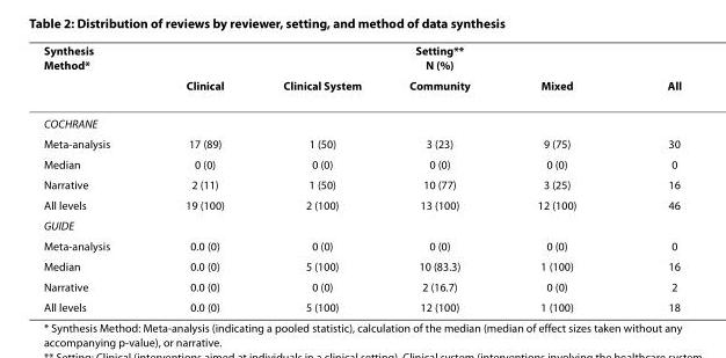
<table><thead><tr><td rowspan="2">Synthesis Method*</td><td colspan="5">Setting** N (%)</td></tr><tr><td>Clinical</td><td>Clinical System</td><td>Community</td><td>Mixed</td><td>All</td></tr></thead><tbody><tr><td colspan="6">COCHRANE</td></tr><tr><td>Meta-analysis</td><td>17 (89)</td><td>1 (50)</td><td>3 (23)</td><td>9 (75)</td><td>30</td></tr><tr><td>Median</td><td>0 (0)</td><td>0 (0)</td><td>0 (0)</td><td>0 (0)</td><td>0</td></tr><tr><td>Narrative</td><td>2 (11)</td><td>1 (50)</td><td>10 (77)</td><td>3 (25)</td><td>16</td></tr><tr><td>All levels</td><td>19 (100)</td><td>2 (100)</td><td>13 (100)</td><td>12 (100)</td><td>46</td></tr><tr><td colspan="6">GUIDE</td></tr><tr><td>Meta-analysis</td><td>0.0 (0)</td><td>0 (0)</td><td>0 (0)</td><td>0 (0)</td><td>0</td></tr><tr><td>Median</td><td>0.0 (0)</td><td>5 (100)</td><td>10 (83.3)</td><td>1 (100)</td><td>16</td></tr><tr><td>Narrative</td><td>0.0 (0)</td><td>0 (0)</td><td>2 (16.7)</td><td>0 (0)</td><td>2</td></tr><tr><td>All levels</td><td>0.0 (0)</td><td>5 (100)</td><td>12 (100)</td><td>1 (100)</td><td>18</td></tr></tbody></table>